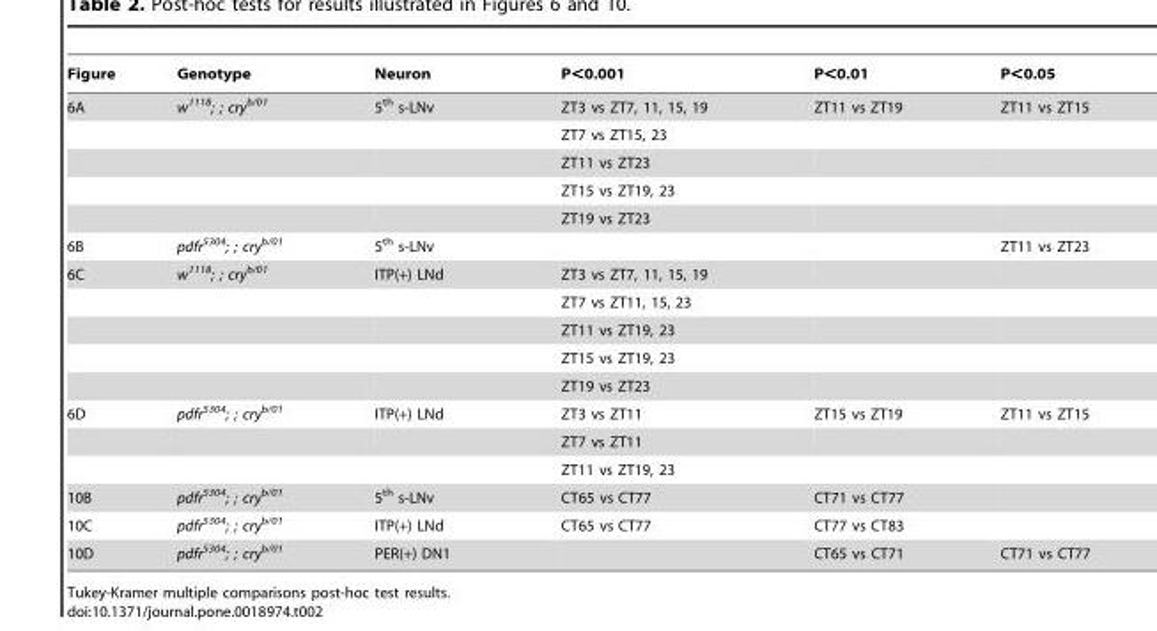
<table><thead><tr><td>Figure</td><td>Genotype</td><td>Neuron</td><td>P&lt;0.001</td><td>P&lt;0.01</td><td>P&lt;0.05</td></tr></thead><tbody><tr><td rowspan="5">6A</td><td>w<sup>1118</sup>; ; cry<sup>b/01</sup></td><td>5<sup>th</sup> s-LNv</td><td>ZT3 vs ZT7, 11, 15, 19</td><td>ZT11 vs ZT19</td><td>ZT11 vs ZT15</td></tr><tr><td></td><td></td><td>ZT7 vs ZT15, 23</td><td></td><td></td></tr><tr><td></td><td></td><td>ZT11 vs ZT23</td><td></td><td></td></tr><tr><td></td><td></td><td>ZT15 vs ZT19, 23</td><td></td><td></td></tr><tr><td></td><td></td><td>ZT19 vs ZT23</td><td></td><td></td></tr><tr><td>6B</td><td>pdfr<sup>5304</sup>; ; cry<sup>b/01</sup></td><td>5<sup>th</sup> s-LNv</td><td></td><td></td><td>ZT11 vs ZT23</td></tr><tr><td rowspan="5">6C</td><td>w<sup>1118</sup>; ; cry<sup>b/01</sup></td><td>ITP(+) LNd</td><td>ZT3 vs ZT7, 11, 15, 19</td><td></td><td></td></tr><tr><td></td><td></td><td>ZT7 vs ZT11, 15, 23</td><td></td><td></td></tr><tr><td></td><td></td><td>ZT11 vs ZT19, 23</td><td></td><td></td></tr><tr><td></td><td></td><td>ZT15 vs ZT19, 23</td><td></td><td></td></tr><tr><td></td><td></td><td>ZT19 vs ZT23</td><td></td><td></td></tr><tr><td rowspan="3">6D</td><td>pdfr<sup>5304</sup>; ; cry<sup>b/01</sup></td><td>ITP(+) LNd</td><td>ZT3 vs ZT11</td><td>ZT15 vs ZT19</td><td>ZT11 vs ZT15</td></tr><tr><td></td><td></td><td>ZT7 vs ZT11</td><td></td><td></td></tr><tr><td></td><td></td><td>ZT11 vs ZT19, 23</td><td></td><td></td></tr><tr><td>10B</td><td>pdfr<sup>5304</sup>; ; cry<sup>b/01</sup></td><td>5<sup>th</sup> s-LNv</td><td>CT65 vs CT77</td><td>CT71 vs CT77</td><td></td></tr><tr><td>10C</td><td>pdfr<sup>5304</sup>; ; cry<sup>b/01</sup></td><td>ITP(+) LNd</td><td>CT65 vs CT77</td><td>CT77 vs CT83</td><td></td></tr><tr><td>10D</td><td>pdfr<sup>5304</sup>; ; cry<sup>b/01</sup></td><td>PER(+) DN1</td><td></td><td>CT65 vs CT71</td><td>CT71 vs CT77</td></tr></tbody></table>